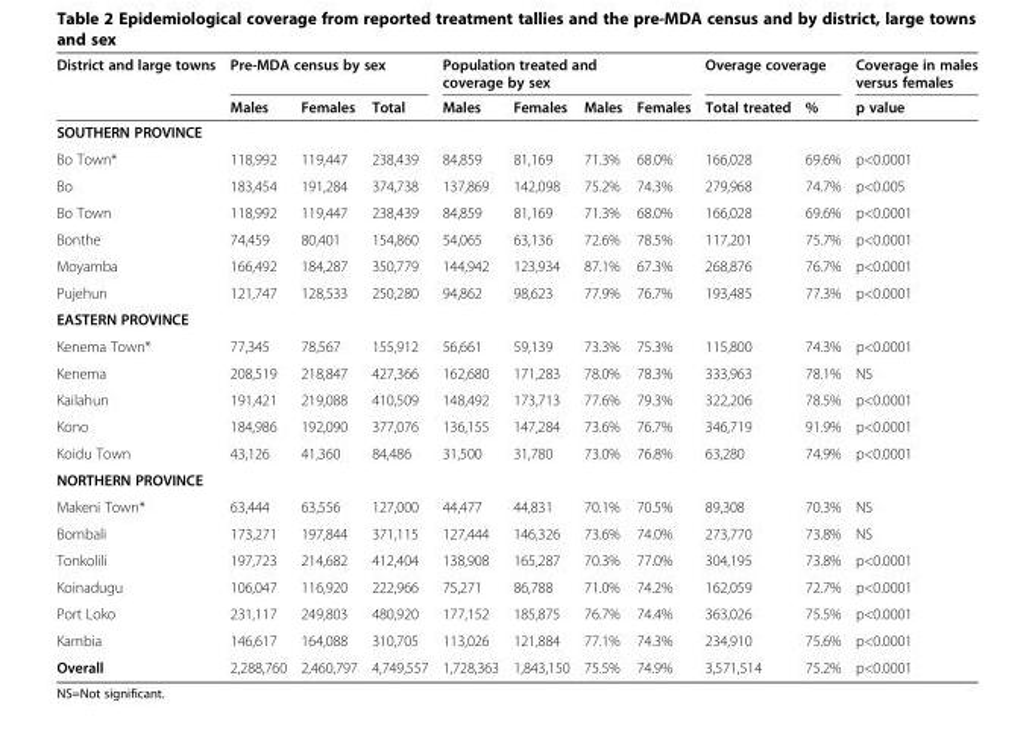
<table><thead><tr><td rowspan="2">District and large towns</td><td colspan="3">Pre-MDA census by sex</td><td colspan="4">Population treated and coverage by sex</td><td colspan="2">Overage coverage</td><td rowspan="2">Coverage in males versus females p value</td></tr><tr><td>Males</td><td>Females</td><td>Total</td><td>Males</td><td>Females</td><td>Males</td><td>Females</td><td>Total treated</td><td>%</td></tr></thead><tbody><tr><td colspan="11">SOUTHERN PROVINCE</td></tr><tr><td>Bo Town*</td><td>118,992</td><td>119,447</td><td>238,439</td><td>84,859</td><td>81,169</td><td>71.3%</td><td>68.0%</td><td>166,028</td><td>69.6%</td><td>p&lt;0.0001</td></tr><tr><td>Bo</td><td>183,454</td><td>191,284</td><td>374,738</td><td>137,869</td><td>142,098</td><td>75.2%</td><td>74.3%</td><td>279,968</td><td>74.7%</td><td>p&lt;0.005</td></tr><tr><td>Bo Town</td><td>118,992</td><td>119,447</td><td>238,439</td><td>84,859</td><td>81,169</td><td>71.3%</td><td>68.0%</td><td>166,028</td><td>69.6%</td><td>p&lt;0.0001</td></tr><tr><td>Bonthe</td><td>74,459</td><td>80,401</td><td>154,860</td><td>54,065</td><td>63,136</td><td>72.6%</td><td>78.5%</td><td>117,201</td><td>75.7%</td><td>p&lt;0.0001</td></tr><tr><td>Moyamba</td><td>166,492</td><td>184,287</td><td>350,779</td><td>144,942</td><td>123,934</td><td>87.1%</td><td>67.3%</td><td>268,876</td><td>76.7%</td><td>p&lt;0.0001</td></tr><tr><td>Pujehun</td><td>121,747</td><td>128,533</td><td>250,280</td><td>94,862</td><td>98,623</td><td>77.9%</td><td>76.7%</td><td>193,485</td><td>77.3%</td><td>p&lt;0.0001</td></tr><tr><td colspan="11">EASTERN PROVINCE</td></tr><tr><td>Kenema Town*</td><td>77,345</td><td>78,567</td><td>155,912</td><td>56,661</td><td>59,139</td><td>73.3%</td><td>75.3%</td><td>115,800</td><td>74.3%</td><td>p&lt;0.0001</td></tr><tr><td>Kenema</td><td>208,519</td><td>218,847</td><td>427,366</td><td>162,680</td><td>171,283</td><td>78.0%</td><td>78.3%</td><td>333,963</td><td>78.1%</td><td>NS</td></tr><tr><td>Kailahun</td><td>191,421</td><td>219,088</td><td>410,509</td><td>148,492</td><td>173,713</td><td>77.6%</td><td>79.3%</td><td>322,206</td><td>78.5%</td><td>p&lt;0.0001</td></tr><tr><td>Kono</td><td>184,986</td><td>192,090</td><td>377,076</td><td>136,155</td><td>147,284</td><td>73.6%</td><td>76.7%</td><td>346,719</td><td>91.9%</td><td>p&lt;0.0001</td></tr><tr><td>Koidu Town</td><td>43,126</td><td>41,360</td><td>84,486</td><td>31,500</td><td>31,780</td><td>73.0%</td><td>76.8%</td><td>63,280</td><td>74.9%</td><td>p&lt;0.0001</td></tr><tr><td colspan="11">NORTHERN PROVINCE</td></tr><tr><td>Makeni Town*</td><td>63,444</td><td>63,556</td><td>127,000</td><td>44,477</td><td>44,831</td><td>70.1%</td><td>70.5%</td><td>89,308</td><td>70.3%</td><td>NS</td></tr><tr><td>Bombali</td><td>173,271</td><td>197,844</td><td>371,115</td><td>127,444</td><td>146,326</td><td>73.6%</td><td>74.0%</td><td>273,770</td><td>73.8%</td><td>NS</td></tr><tr><td>Tonkolili</td><td>197,723</td><td>214,682</td><td>412,404</td><td>138,908</td><td>165,287</td><td>70.3%</td><td>77.0%</td><td>304,195</td><td>73.8%</td><td>p&lt;0.0001</td></tr><tr><td>Koinadugu</td><td>106,047</td><td>116,920</td><td>222,966</td><td>75,271</td><td>86,788</td><td>71.0%</td><td>74.2%</td><td>162,059</td><td>72.7%</td><td>p&lt;0.0001</td></tr><tr><td>Port Loko</td><td>231,117</td><td>249,803</td><td>480,920</td><td>177,152</td><td>185,875</td><td>76.7%</td><td>74.4%</td><td>363,026</td><td>75.5%</td><td>p&lt;0.0001</td></tr><tr><td>Kambia</td><td>146,617</td><td>164,088</td><td>310,705</td><td>113,026</td><td>121,884</td><td>77.1%</td><td>74.3%</td><td>234,910</td><td>75.6%</td><td>p&lt;0.0001</td></tr><tr><td>Overall</td><td>2,288,760</td><td>2,460,797</td><td>4,749,557</td><td>1,728,363</td><td>1,843,150</td><td>75.5%</td><td>74.9%</td><td>3,571,514</td><td>75.2%</td><td>p&lt;0.0001</td></tr></tbody></table>